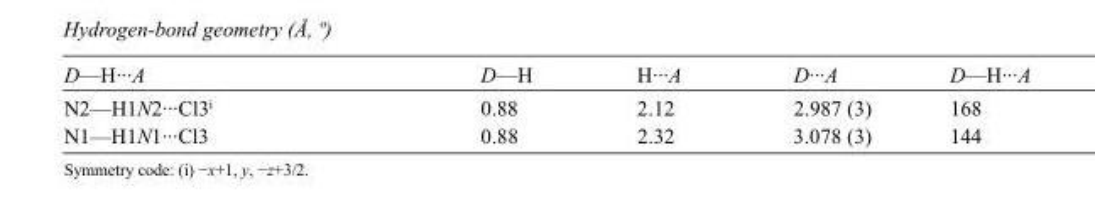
<table><tbody><tr><td>D—H···A</td><td>D—H</td><td>H···A</td><td>D···A</td><td>D—H···A</td></tr><tr><td>N2—H1N2···Cl3<sup>i</sup></td><td>0.88</td><td>2.12</td><td>2.987 (3)</td><td>168</td></tr><tr><td>N1—H1N1···Cl3</td><td>0.88</td><td>2.32</td><td>3.078 (3)</td><td>144</td></tr></tbody></table>